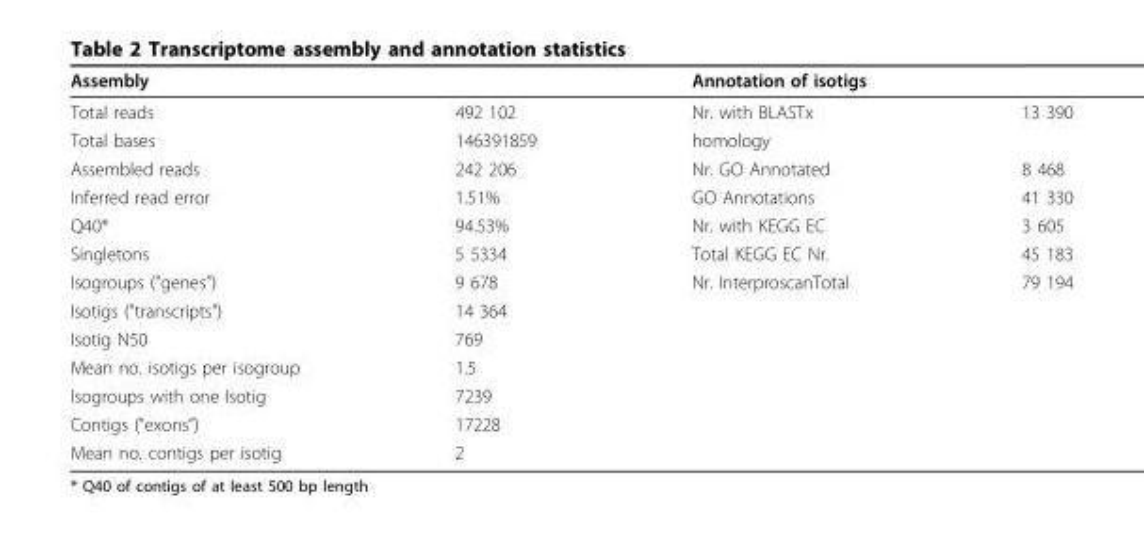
<table><thead><tr><td>Assembly</td><td></td><td>Annotation of isotigs</td><td></td></tr></thead><tbody><tr><td>Total reads</td><td>492 102</td><td>Nr. with BLASTx</td><td>13 390</td></tr><tr><td>Total bases</td><td>146391859</td><td>homology</td><td></td></tr><tr><td>Assembled reads</td><td>242 206</td><td>Nr. GO Annotated</td><td>8 468</td></tr><tr><td>Inferred read error</td><td>1.51%</td><td>GO Annotations</td><td>41 330</td></tr><tr><td>Q40*</td><td>94.53%</td><td>Nr. with KEGG EC</td><td>3 605</td></tr><tr><td>Singletons</td><td>5 5334</td><td>Total KEGG EC Nr.</td><td>45 183</td></tr><tr><td>Isogroups (&quot;genes”)</td><td>9 678</td><td>Nr. InterproscanTotal</td><td>79 194</td></tr><tr><td>Isotigs (&quot;transcripts”)</td><td>14 364</td><td></td><td></td></tr><tr><td>Isotig N50</td><td>769</td><td></td><td></td></tr><tr><td>Mean no. isotigs per isogroup</td><td>1.5</td><td></td><td></td></tr><tr><td>Isogroups with one Isotig</td><td>7239</td><td></td><td></td></tr><tr><td>Contigs (&quot;exons”)</td><td>17228</td><td></td><td></td></tr><tr><td>Mean no. contigs per isotig</td><td>2</td><td></td><td></td></tr></tbody></table>